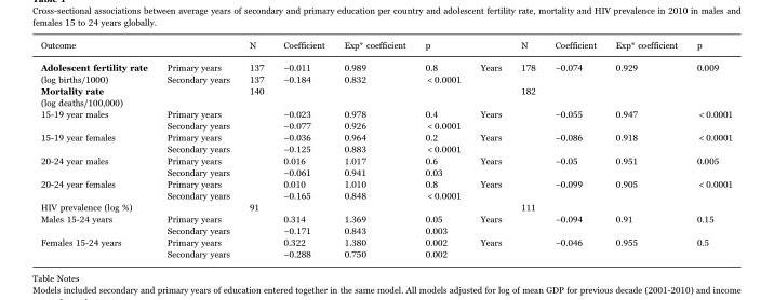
<table><thead><tr><td>Outcome</td><td></td><td>N</td><td>Coefficient</td><td>Exp* coefficient</td><td>p</td><td></td><td>N</td><td>Coefficient</td><td>Exp* coefficient</td><td>p</td></tr></thead><tbody><tr><td>Adolescent fertility rate</td><td>Primary years</td><td>137</td><td>−0.011</td><td>0.989</td><td>0.8</td><td>Years</td><td>178</td><td>−0.074</td><td>0.929</td><td>0.009</td></tr><tr><td>(log births/1000)</td><td>Secondary years</td><td>137</td><td>−0.184</td><td>0.832</td><td>&lt; 0.0001</td><td></td><td></td><td></td><td></td><td></td></tr><tr><td>Mortality rate</td><td></td><td>140</td><td></td><td></td><td></td><td></td><td>182</td><td></td><td></td><td></td></tr><tr><td colspan="11">(log deaths/100,000)</td></tr><tr><td rowspan="2">15-19 year males</td><td>Primary years</td><td></td><td>−0.023</td><td>0.978</td><td>0.4</td><td>Years</td><td></td><td>−0.055</td><td>0.947</td><td>&lt; 0.0001</td></tr><tr><td>Secondary years</td><td></td><td>−0.077</td><td>0.926</td><td>&lt; 0.0001</td><td></td><td></td><td></td><td></td><td></td></tr><tr><td rowspan="2">15-19 year females</td><td>Primary years</td><td></td><td>−0.036</td><td>0.964</td><td>0.2</td><td>Years</td><td></td><td>−0.086</td><td>0.918</td><td>&lt; 0.0001</td></tr><tr><td>Secondary years</td><td></td><td>−0.125</td><td>0.883</td><td>&lt; 0.0001</td><td></td><td></td><td></td><td></td><td></td></tr><tr><td rowspan="2">20-24 year males</td><td>Primary years</td><td></td><td>0.016</td><td>1.017</td><td>0.6</td><td>Years</td><td></td><td>−0.05</td><td>0.951</td><td>0.005</td></tr><tr><td>Secondary years</td><td></td><td>−0.061</td><td>0.941</td><td>0.03</td><td></td><td></td><td></td><td></td><td></td></tr><tr><td rowspan="2">20-24 year females</td><td>Primary years</td><td></td><td>0.010</td><td>1.010</td><td>0.8</td><td>Years</td><td></td><td>−0.099</td><td>0.905</td><td>&lt; 0.0001</td></tr><tr><td>Secondary years</td><td></td><td>−0.165</td><td>0.848</td><td>&lt; 0.0001</td><td></td><td></td><td></td><td></td><td></td></tr><tr><td>HIV prevalence (log %)</td><td></td><td>91</td><td></td><td></td><td></td><td></td><td>111</td><td></td><td></td><td></td></tr><tr><td rowspan="2">Males 15-24 years</td><td>Primary years</td><td></td><td>0.314</td><td>1.369</td><td>0.05</td><td>Years</td><td></td><td>−0.094</td><td>0.91</td><td>0.15</td></tr><tr><td>Secondary years</td><td></td><td>−0.171</td><td>0.843</td><td>0.003</td><td></td><td></td><td></td><td></td><td></td></tr><tr><td rowspan="2">Females 15-24 years</td><td>Primary years</td><td></td><td>0.322</td><td>1.380</td><td>0.002</td><td>Years</td><td></td><td>−0.046</td><td>0.955</td><td>0.5</td></tr><tr><td>Secondary years</td><td></td><td>−0.288</td><td>0.750</td><td>0.002</td><td></td><td></td><td></td><td></td><td></td></tr></tbody></table>